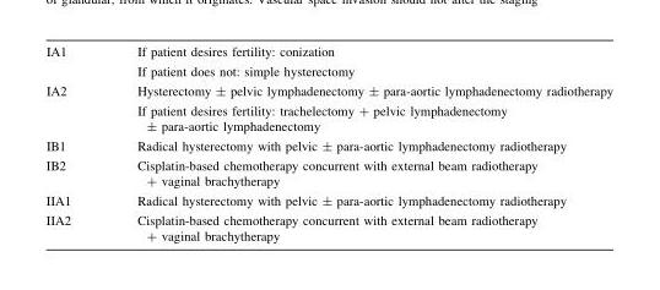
<table><tbody><tr><td>IA1</td><td>If patient desires fertility: conization If patient does not: simple hysterectomy</td></tr><tr><td>IA2</td><td>Hysterectomy ± pelvic lymphadenectomy ± para-aortic lymphadenectomy radiotherapy If patient desires fertility: trachelectomy + pelvic lymphadenectomy ± para-aortic lymphadenectomy</td></tr><tr><td>IB1</td><td>Radical hysterectomy with pelvic ± para-aortic lymphadenectomy radiotherapy</td></tr><tr><td>IB2</td><td>Cisplatin-based chemotherapy concurrent with external beam radiotherapy + vaginal brachytherapy</td></tr><tr><td>IIA1</td><td>Radical hysterectomy with pelvic ± para-aortic lymphadenectomy radiotherapy</td></tr><tr><td>IIA2</td><td>Cisplatin-based chemotherapy concurrent with external beam radiotherapy + vaginal brachytherapy</td></tr></tbody></table>